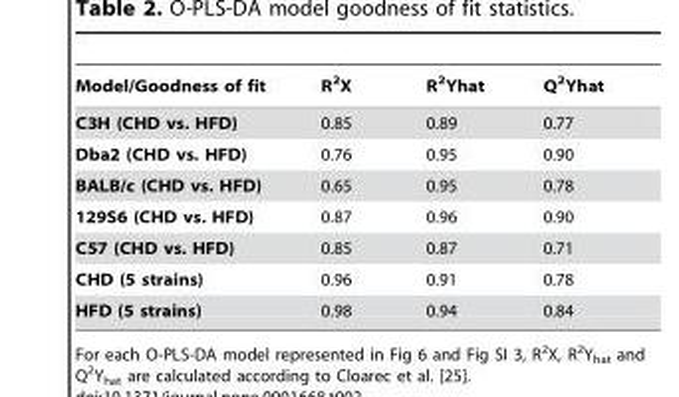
<table><thead><tr><td>Model/Goodness of fit</td><td>R<sup>2</sup>X</td><td>R<sup>2</sup>Yhat</td><td>Q<sup>2</sup>Yhat</td></tr></thead><tbody><tr><td>C3H (CHD vs. HFD)</td><td>0.85</td><td>0.89</td><td>0.77</td></tr><tr><td>Dba2 (CHD vs. HFD)</td><td>0.76</td><td>0.95</td><td>0.90</td></tr><tr><td>BALB/c (CHD vs. HFD)</td><td>0.65</td><td>0.95</td><td>0.78</td></tr><tr><td>129S6 (CHD vs. HFD)</td><td>0.87</td><td>0.96</td><td>0.90</td></tr><tr><td>C57 (CHD vs. HFD)</td><td>0.85</td><td>0.87</td><td>0.71</td></tr><tr><td>CHD (5 strains)</td><td>0.96</td><td>0.91</td><td>0.78</td></tr><tr><td>HFD (5 strains)</td><td>0.98</td><td>0.94</td><td>0.84</td></tr></tbody></table>